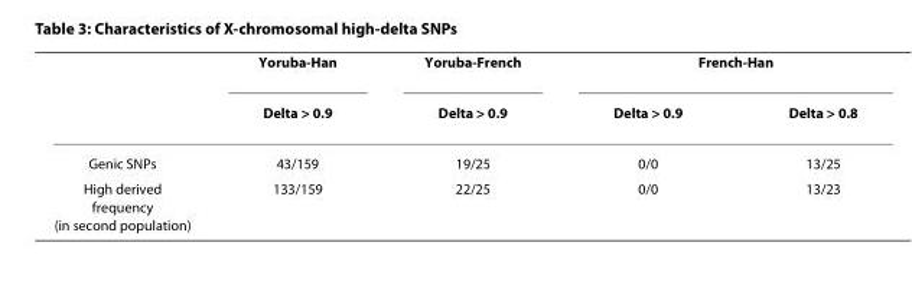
<table><thead><tr><td rowspan="2"></td><td rowspan="2">Yoruba-Han Delta &gt; 0.9</td><td rowspan="2">Yoruba-French Delta &gt; 0.9</td><td colspan="2">French-Han</td></tr><tr><td>Delta &gt; 0.9</td><td>Delta &gt; 0.8</td></tr></thead><tbody><tr><td>Genic SNPs</td><td>43/159</td><td>19/25</td><td>0/0</td><td>13/25</td></tr><tr><td>High derived frequency (in second population)</td><td>133/159</td><td>22/25</td><td>0/0</td><td>13/23</td></tr></tbody></table>